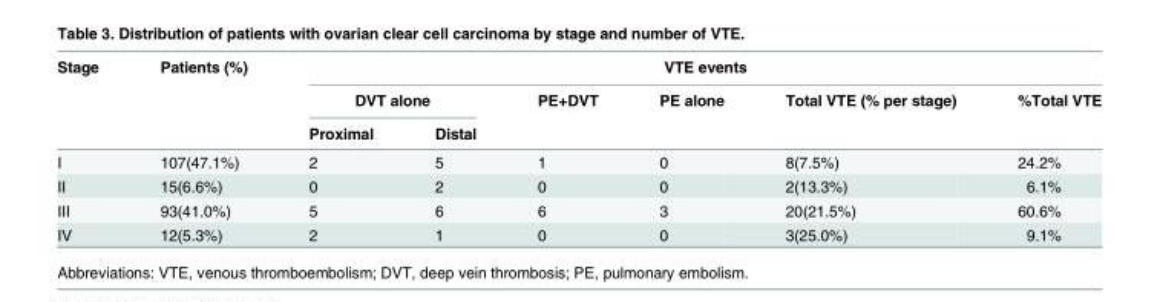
<table><thead><tr><td rowspan="3">Stage</td><td rowspan="3">Patients (%)</td><td colspan="6">VTE events</td></tr><tr><td colspan="2">DVT alone</td><td rowspan="2">PE+DVT</td><td rowspan="2">PE alone</td><td rowspan="2">Total VTE (% per stage)</td><td rowspan="2">%Total VTE</td></tr><tr><td>Proximal</td><td>Distal</td></tr></thead><tbody><tr><td>I</td><td>107(47.1%)</td><td>2</td><td>5</td><td>1</td><td>0</td><td>8(7.5%)</td><td>24.2%</td></tr><tr><td>II</td><td>15(6.6%)</td><td>0</td><td>2</td><td>0</td><td>0</td><td>2(13.3%)</td><td>6.1%</td></tr><tr><td>III</td><td>93(41.0%)</td><td>5</td><td>6</td><td>6</td><td>3</td><td>20(21.5%)</td><td>60.6%</td></tr><tr><td>IV</td><td>12(5.3%)</td><td>2</td><td>1</td><td>0</td><td>0</td><td>3(25.0%)</td><td>9.1%</td></tr></tbody></table>